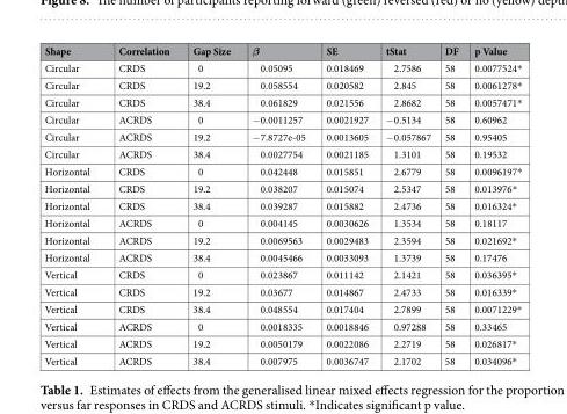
<table><thead><tr><td>Shape</td><td>Correlation</td><td>Gap Size</td><td>β</td><td>SE</td><td>tStat</td><td>DF</td><td>p Value</td></tr></thead><tbody><tr><td>Circular</td><td>CRDS</td><td>0</td><td>0.05095</td><td>0.018469</td><td>2.7586</td><td>58</td><td>0.0077524*</td></tr><tr><td>Circular</td><td>CRDS</td><td>19.2</td><td>0.058554</td><td>0.020582</td><td>2.845</td><td>58</td><td>0.0061278*</td></tr><tr><td>Circular</td><td>CRDS</td><td>38.4</td><td>0.061829</td><td>0.021556</td><td>2.8682</td><td>58</td><td>0.0057471*</td></tr><tr><td>Circular</td><td>ACRDS</td><td>0</td><td>−0.0011257</td><td>0.0021927</td><td>−0.5134</td><td>58</td><td>0.60962</td></tr><tr><td>Circular</td><td>ACRDS</td><td>19.2</td><td>−7.8727e-05</td><td>0.0013605</td><td>−0.057867</td><td>58</td><td>0.95405</td></tr><tr><td>Circular</td><td>ACRDS</td><td>38.4</td><td>0.0027754</td><td>0.0021185</td><td>1.3101</td><td>58</td><td>0.19532</td></tr><tr><td>Horizontal</td><td>CRDS</td><td>0</td><td>0.042448</td><td>0.015851</td><td>2.6779</td><td>58</td><td>0.0096197*</td></tr><tr><td>Horizontal</td><td>CRDS</td><td>19.2</td><td>0.038207</td><td>0.015074</td><td>2.5347</td><td>58</td><td>0.013976*</td></tr><tr><td>Horizontal</td><td>CRDS</td><td>38.4</td><td>0.039287</td><td>0.015882</td><td>2.4736</td><td>58</td><td>0.016324*</td></tr><tr><td>Horizontal</td><td>ACRDS</td><td>0</td><td>0.004145</td><td>0.0030626</td><td>1.3534</td><td>58</td><td>0.18117</td></tr><tr><td>Horizontal</td><td>ACRDS</td><td>19.2</td><td>0.0069563</td><td>0.0029483</td><td>2.3594</td><td>58</td><td>0.021692*</td></tr><tr><td>Horizontal</td><td>ACRDS</td><td>38.4</td><td>0.0045466</td><td>0.0033093</td><td>1.3739</td><td>58</td><td>0.17476</td></tr><tr><td>Vertical</td><td>CRDS</td><td>0</td><td>0.023867</td><td>0.011142</td><td>2.1421</td><td>58</td><td>0.036395*</td></tr><tr><td>Vertical</td><td>CRDS</td><td>19.2</td><td>0.03677</td><td>0.014867</td><td>2.4733</td><td>58</td><td>0.016339*</td></tr><tr><td>Vertical</td><td>CRDS</td><td>38.4</td><td>0.048554</td><td>0.017404</td><td>2.7899</td><td>58</td><td>0.0071229*</td></tr><tr><td>Vertical</td><td>ACRDS</td><td>0</td><td>0.0018335</td><td>0.0018846</td><td>0.97288</td><td>58</td><td>0.33465</td></tr><tr><td>Vertical</td><td>ACRDS</td><td>19.2</td><td>0.0050179</td><td>0.0022086</td><td>2.2719</td><td>58</td><td>0.026817*</td></tr><tr><td>Vertical</td><td>ACRDS</td><td>38.4</td><td>0.007975</td><td>0.0036747</td><td>2.1702</td><td>58</td><td>0.034096*</td></tr></tbody></table>